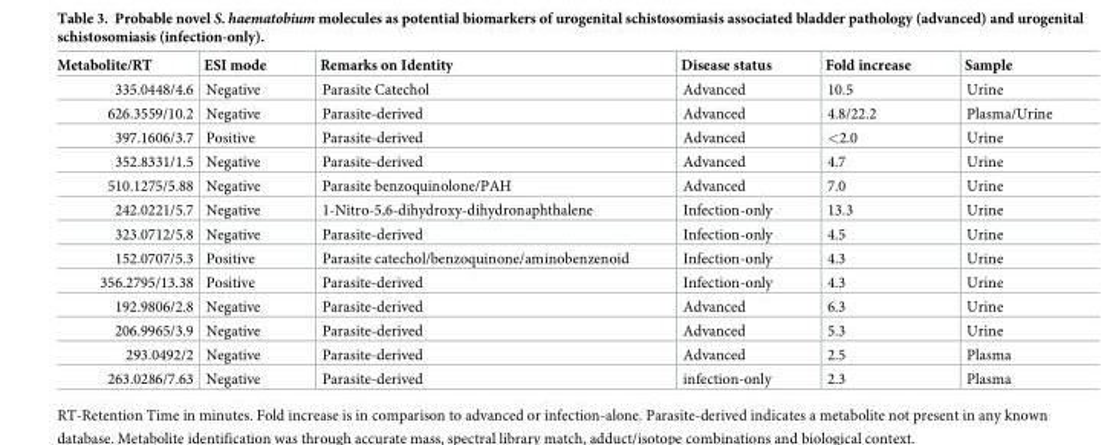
<table><thead><tr><td>Metabolite/RT</td><td>ESI mode</td><td>Remarks on Identity</td><td>Disease status</td><td>Fold increase</td><td>Sample</td></tr></thead><tbody><tr><td>335.0448/4.6</td><td>Negative</td><td>Parasite Catechol</td><td>Advanced</td><td>10.5</td><td>Urine</td></tr><tr><td>626.3559/10.2</td><td>Negative</td><td>Parasite-derived</td><td>Advanced</td><td>4.8/22.2</td><td>Plasma/Urine</td></tr><tr><td>397.1606/3.7</td><td>Positive</td><td>Parasite-derived</td><td>Advanced</td><td>&lt;2.0</td><td>Urine</td></tr><tr><td>352.8331/1.5</td><td>Negative</td><td>Parasite-derived</td><td>Advanced</td><td>4.7</td><td>Urine</td></tr><tr><td>510.1275/5.88</td><td>Negative</td><td>Parasite benzoquinolone/PAH</td><td>Advanced</td><td>7.0</td><td>Urine</td></tr><tr><td>242.0221/5.7</td><td>Negative</td><td>1-Nitro-5,6-dihydroxy-dihydronaphthalene</td><td>Infection-only</td><td>13.3</td><td>Urine</td></tr><tr><td>323.0712/5.8</td><td>Negative</td><td>Parasite-derived</td><td>Infection-only</td><td>4.5</td><td>Urine</td></tr><tr><td>152.0707/5.3</td><td>Positive</td><td>Parasite catechol/benzoquinone/aminobenzenoid</td><td>Infection-only</td><td>4.3</td><td>Urine</td></tr><tr><td>356.2795/13.38</td><td>Positive</td><td>Parasite-derived</td><td>Infection-only</td><td>4.3</td><td>Urine</td></tr><tr><td>192.9806/2.8</td><td>Negative</td><td>Parasite-derived</td><td>Advanced</td><td>6.3</td><td>Urine</td></tr><tr><td>206.9965/3.9</td><td>Negative</td><td>Parasite-derived</td><td>Advanced</td><td>5.3</td><td>Urine</td></tr><tr><td>293.0492/2</td><td>Negative</td><td>Parasite-derived</td><td>Advanced</td><td>2.5</td><td>Plasma</td></tr><tr><td>263.0286/7.63</td><td>Negative</td><td>Parasite-derived</td><td>infection-only</td><td>2.3</td><td>Plasma</td></tr></tbody></table>